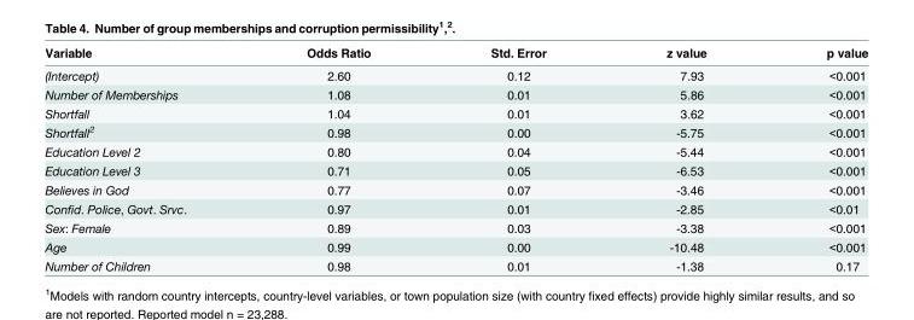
<table><thead><tr><td>Variable</td><td>Odds Ratio</td><td>Std. Error</td><td>z value</td><td>p value</td></tr></thead><tbody><tr><td>(Intercept)</td><td>2.60</td><td>0.12</td><td>7.93</td><td>&lt;0.001</td></tr><tr><td>Number of Memberships</td><td>1.08</td><td>0.01</td><td>5.86</td><td>&lt;0.001</td></tr><tr><td>Shortfall</td><td>1.04</td><td>0.01</td><td>3.62</td><td>&lt;0.001</td></tr><tr><td>Shortfall<sup>2</sup></td><td>0.98</td><td>0.00</td><td>-5.75</td><td>&lt;0.001</td></tr><tr><td>Education Level 2</td><td>0.80</td><td>0.04</td><td>-5.44</td><td>&lt;0.001</td></tr><tr><td>Education Level 3</td><td>0.71</td><td>0.05</td><td>-6.53</td><td>&lt;0.001</td></tr><tr><td>Believes in God</td><td>0.77</td><td>0.07</td><td>-3.46</td><td>&lt;0.001</td></tr><tr><td>Confid. Police, Govt. Srvc.</td><td>0.97</td><td>0.01</td><td>-2.85</td><td>&lt;0.01</td></tr><tr><td>Sex: Female</td><td>0.89</td><td>0.03</td><td>-3.38</td><td>&lt;0.001</td></tr><tr><td>Age</td><td>0.99</td><td>0.00</td><td>-10.48</td><td>&lt;0.001</td></tr><tr><td>Number of Children</td><td>0.98</td><td>0.01</td><td>-1.38</td><td>0.17</td></tr></tbody></table>